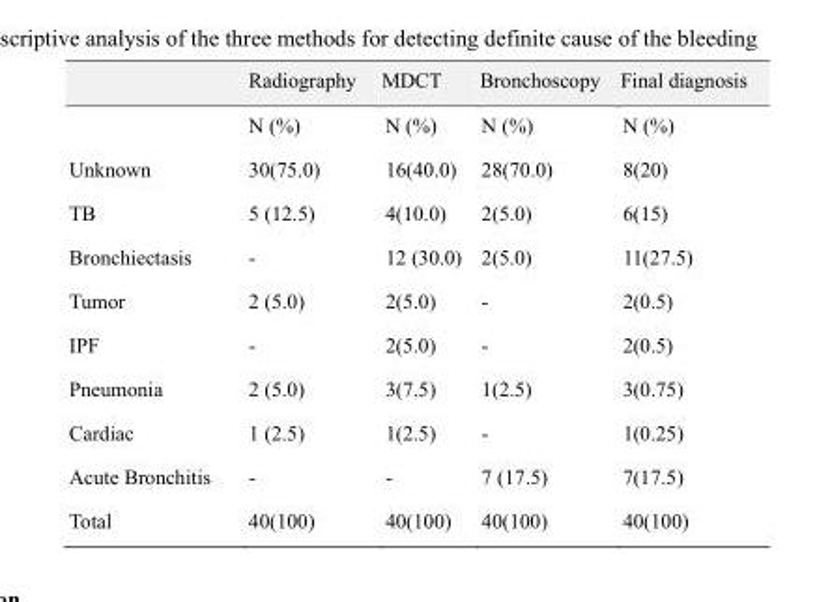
<table><thead><tr><td></td><td>Radiography</td><td>MDCT</td><td>Bronchoscopy</td><td>Final diagnosis</td></tr></thead><tbody><tr><td></td><td>N (%)</td><td>N (%)</td><td>N (%)</td><td>N (%)</td></tr><tr><td>Unknown</td><td>30(75.0)</td><td>16(40.0)</td><td>28(70.0)</td><td>8 ) 20 (</td></tr><tr><td>TB</td><td>5 (12.5)</td><td>4(10.0)</td><td>2(5.0)</td><td>6 ) 15 (</td></tr><tr><td>Bronchiectasis</td><td>-</td><td>12 (30.0)</td><td>2(5.0)</td><td>11 ) 27.5 (</td></tr><tr><td>Tumor</td><td>2 (5.0)</td><td>2(5.0)</td><td>-</td><td>2 ) 0.5 (</td></tr><tr><td>IPF</td><td>-</td><td>2(5.0)</td><td>-</td><td>2 ) 0.5 (</td></tr><tr><td>Pneumonia</td><td>2 (5.0)</td><td>3(7.5)</td><td>1(2.5)</td><td>3 ) 0.75 (</td></tr><tr><td>Cardiac</td><td>1 (2.5)</td><td>1(2.5)</td><td>-</td><td>1 ) 0.25 (</td></tr><tr><td>Acute Bronchitis</td><td>-</td><td>-</td><td>7 (17.5)</td><td>7 ) 17.5 (</td></tr><tr><td>Total</td><td>40(100)</td><td>40(100)</td><td>40(100)</td><td>40(100)</td></tr></tbody></table>